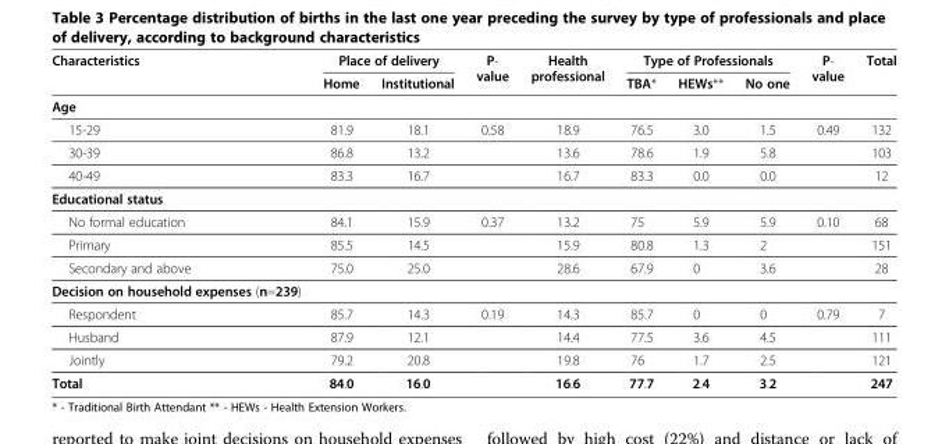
<table><thead><tr><td rowspan="2">Characteristics</td><td colspan="2">Place of delivery</td><td rowspan="2">P- value</td><td rowspan="2">Health professional</td><td colspan="3">Type of Professionals</td><td rowspan="2">P- value</td><td rowspan="2">Total</td></tr><tr><td>Home</td><td>Institutional</td><td>TBA*</td><td>HEWs**</td><td>No one</td></tr></thead><tbody><tr><td colspan="10">Age</td></tr><tr><td>15-29</td><td>81.9</td><td>18.1</td><td>0.58</td><td>18.9</td><td>76.5</td><td>3.0</td><td>1.5</td><td>0.49</td><td>132</td></tr><tr><td>30-39</td><td>86.8</td><td>13.2</td><td></td><td>13.6</td><td>78.6</td><td>1.9</td><td>5.8</td><td></td><td>103</td></tr><tr><td>40-49</td><td>83.3</td><td>16.7</td><td></td><td>16.7</td><td>83.3</td><td>0.0</td><td>0.0</td><td></td><td>12</td></tr><tr><td colspan="10">Educational status</td></tr><tr><td>No formal education</td><td>84.1</td><td>15.9</td><td>0.37</td><td>13.2</td><td>75</td><td>5.9</td><td>5.9</td><td>0.10</td><td>68</td></tr><tr><td>Primary</td><td>85.5</td><td>14.5</td><td></td><td>15.9</td><td>80.8</td><td>1.3</td><td>2</td><td></td><td>151</td></tr><tr><td>Secondary and above</td><td>75.0</td><td>25.0</td><td></td><td>28.6</td><td>67.9</td><td>0</td><td>3.6</td><td></td><td>28</td></tr><tr><td colspan="10">Decision on household expenses (n=239)</td></tr><tr><td>Respondent</td><td>85.7</td><td>14.3</td><td>0.19</td><td>14.3</td><td>85.7</td><td>0</td><td>0</td><td>0.79</td><td>7</td></tr><tr><td>Husband</td><td>87.9</td><td>12.1</td><td></td><td>14.4</td><td>77.5</td><td>3.6</td><td>4.5</td><td></td><td>111</td></tr><tr><td>Jointly</td><td>79.2</td><td>20.8</td><td></td><td>19.8</td><td>76</td><td>1.7</td><td>2.5</td><td></td><td>121</td></tr><tr><td>Total</td><td>84.0</td><td>16.0</td><td></td><td>16.6</td><td>77.7</td><td>2.4</td><td>3.2</td><td></td><td>247</td></tr></tbody></table>